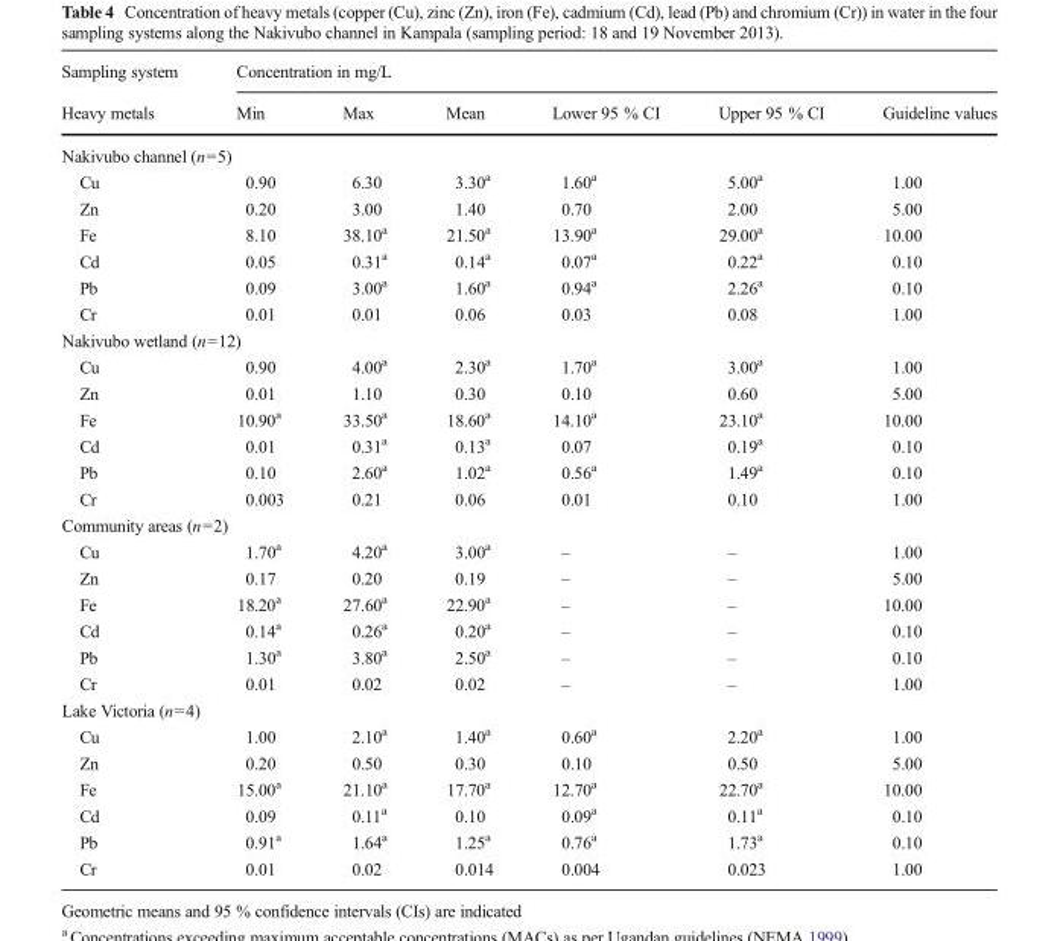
<table><thead><tr><td rowspan="2">Sampling system Heavy metals</td><td colspan="6">Concentration in mg/L</td></tr><tr><td>Min</td><td>Max</td><td>Mean</td><td>Lower 95 % CI</td><td>Upper 95 % CI</td><td>Guideline values</td></tr></thead><tbody><tr><td colspan="7">Nakivubo channel (n=5)</td></tr><tr><td>Cu</td><td>0.90</td><td>6.30</td><td>3.30<sup>a</sup></td><td>1.60<sup>a</sup></td><td>5.00<sup>a</sup></td><td>1.00</td></tr><tr><td>Zn</td><td>0.20</td><td>3.00</td><td>1.40</td><td>0.70</td><td>2.00</td><td>5.00</td></tr><tr><td>Fe</td><td>8.10</td><td>38.10<sup>a</sup></td><td>21.50<sup>a</sup></td><td>13.90<sup>a</sup></td><td>29.00<sup>a</sup></td><td>10.00</td></tr><tr><td>Cd</td><td>0.05</td><td>0.31<sup>a</sup></td><td>0.14<sup>a</sup></td><td>0.07<sup>a</sup></td><td>0.22<sup>a</sup></td><td>0.10</td></tr><tr><td>Pb</td><td>0.09</td><td>3.00<sup>a</sup></td><td>1.60<sup>a</sup></td><td>0.94<sup>a</sup></td><td>2.26<sup>a</sup></td><td>0.10</td></tr><tr><td>Cr</td><td>0.01</td><td>0.01</td><td>0.06</td><td>0.03</td><td>0.08</td><td>1.00</td></tr><tr><td colspan="7">Nakivubo wetland (n=12)</td></tr><tr><td>Cu</td><td>0.90</td><td>4.00<sup>a</sup></td><td>2.30<sup>a</sup></td><td>1.70<sup>a</sup></td><td>3.00<sup>a</sup></td><td>1.00</td></tr><tr><td>Zn</td><td>0.01</td><td>1.10</td><td>0.30</td><td>0.10</td><td>0.60</td><td>5.00</td></tr><tr><td>Fe</td><td>10.90<sup>a</sup></td><td>33.50<sup>a</sup></td><td>18.60<sup>a</sup></td><td>14.10<sup>a</sup></td><td>23.10<sup>a</sup></td><td>10.00</td></tr><tr><td>Cd</td><td>0.01</td><td>0.31<sup>a</sup></td><td>0.13<sup>a</sup></td><td>0.07</td><td>0.19<sup>a</sup></td><td>0.10</td></tr><tr><td>Pb</td><td>0.10</td><td>2.60<sup>a</sup></td><td>1.02<sup>a</sup></td><td>0.56<sup>a</sup></td><td>1.49<sup>a</sup></td><td>0.10</td></tr><tr><td>Cr</td><td>0.003</td><td>0.21</td><td>0.06</td><td>0.01</td><td>0.10</td><td>1.00</td></tr><tr><td colspan="7">Community areas (n=2)</td></tr><tr><td>Cu</td><td>1.70<sup>a</sup></td><td>4.20<sup>a</sup></td><td>3.00<sup>a</sup></td><td>–</td><td>–</td><td>1.00</td></tr><tr><td>Zn</td><td>0.17</td><td>0.20</td><td>0.19</td><td>–</td><td>–</td><td>5.00</td></tr><tr><td>Fe</td><td>18.20<sup>a</sup></td><td>27.60<sup>a</sup></td><td>22.90<sup>a</sup></td><td>–</td><td>–</td><td>10.00</td></tr><tr><td>Cd</td><td>0.14<sup>a</sup></td><td>0.26<sup>a</sup></td><td>0.20<sup>a</sup></td><td>–</td><td>–</td><td>0.10</td></tr><tr><td>Pb</td><td>1.30<sup>a</sup></td><td>3.80<sup>a</sup></td><td>2.50<sup>a</sup></td><td>–</td><td>–</td><td>0.10</td></tr><tr><td>Cr</td><td>0.01</td><td>0.02</td><td>0.02</td><td>–</td><td>–</td><td>1.00</td></tr><tr><td colspan="7">Lake Victoria (n=4)</td></tr><tr><td>Cu</td><td>1.00</td><td>2.10<sup>a</sup></td><td>1.40<sup>a</sup></td><td>0.60<sup>a</sup></td><td>2.20<sup>a</sup></td><td>1.00</td></tr><tr><td>Zn</td><td>0.20</td><td>0.50</td><td>0.30</td><td>0.10</td><td>0.50</td><td>5.00</td></tr><tr><td>Fe</td><td>15.00<sup>a</sup></td><td>21.10<sup>a</sup></td><td>17.70<sup>a</sup></td><td>12.70<sup>a</sup></td><td>22.70<sup>a</sup></td><td>10.00</td></tr><tr><td>Cd</td><td>0.09</td><td>0.11<sup>a</sup></td><td>0.10</td><td>0.09<sup>a</sup></td><td>0.11<sup>a</sup></td><td>0.10</td></tr><tr><td>Pb</td><td>0.91<sup>a</sup></td><td>1.64<sup>a</sup></td><td>1.25<sup>a</sup></td><td>0.76<sup>a</sup></td><td>1.73<sup>a</sup></td><td>0.10</td></tr><tr><td>Cr</td><td>0.01</td><td>0.02</td><td>0.014</td><td>0.004</td><td>0.023</td><td>1.00</td></tr></tbody></table>